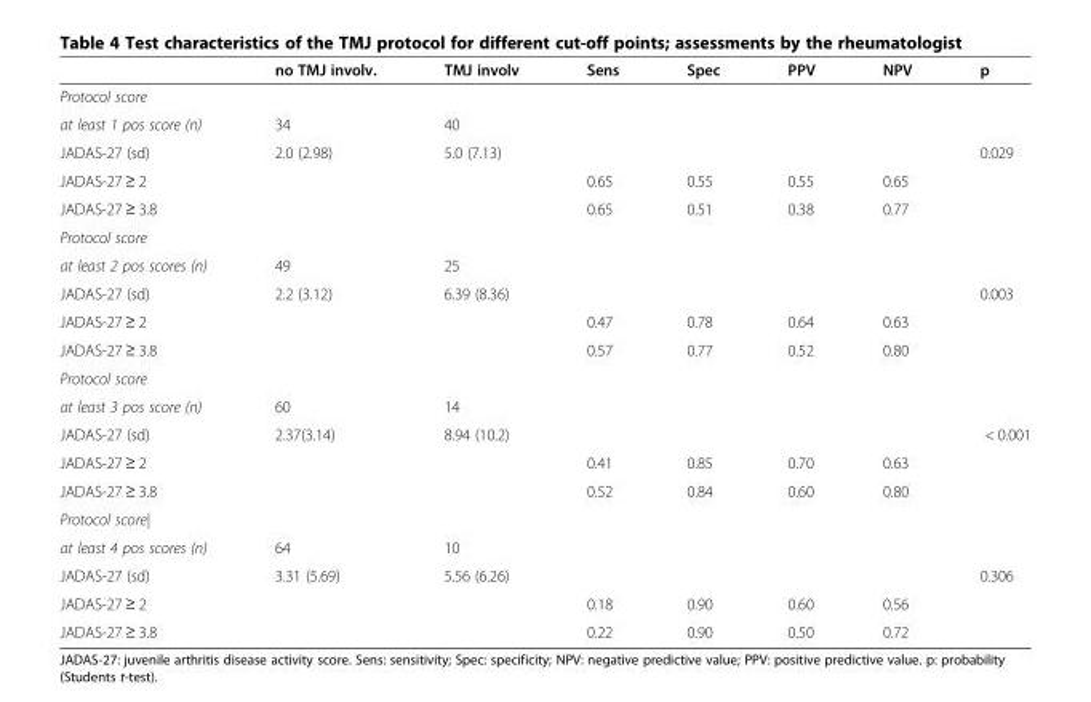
<table><thead><tr><td></td><td>no TMJ involv.</td><td>TMJ involv</td><td>Sens</td><td>Spec</td><td>PPV</td><td>NPV</td><td>p</td></tr></thead><tbody><tr><td colspan="8">Protocol score</td></tr><tr><td>at least 1 pos score (n)</td><td>34</td><td>40</td><td></td><td></td><td></td><td></td><td></td></tr><tr><td>JADAS-27 (sd)</td><td>2.0 (2.98)</td><td>5.0 (7.13)</td><td></td><td></td><td></td><td></td><td>0.029</td></tr><tr><td>JADAS-27 ≥ 2</td><td></td><td></td><td>0.65</td><td>0.55</td><td>0.55</td><td>0.65</td><td></td></tr><tr><td>JADAS-27 ≥ 3.8</td><td></td><td></td><td>0.65</td><td>0.51</td><td>0.38</td><td>0.77</td><td></td></tr><tr><td colspan="8">Protocol score</td></tr><tr><td>at least 2 pos scores (n)</td><td>49</td><td>25</td><td></td><td></td><td></td><td></td><td></td></tr><tr><td>JADAS-27 (sd)</td><td>2.2 (3.12)</td><td>6.39 (8.36)</td><td></td><td></td><td></td><td></td><td>0.003</td></tr><tr><td>JADAS-27 ≥ 2</td><td></td><td></td><td>0.47</td><td>0.78</td><td>0.64</td><td>0.63</td><td></td></tr><tr><td>JADAS-27 ≥ 3.8</td><td></td><td></td><td>0.57</td><td>0.77</td><td>0.52</td><td>0.80</td><td></td></tr><tr><td colspan="8">Protocol score</td></tr><tr><td>at least 3 pos score (n)</td><td>60</td><td>14</td><td></td><td></td><td></td><td></td><td></td></tr><tr><td>JADAS-27 (sd)</td><td>2.37(3.14)</td><td>8.94 (10.2)</td><td></td><td></td><td></td><td></td><td>&lt; 0.001</td></tr><tr><td>JADAS-27 ≥ 2</td><td></td><td></td><td>0.41</td><td>0.85</td><td>0.70</td><td>0.63</td><td></td></tr><tr><td>JADAS-27 ≥ 3.8</td><td></td><td></td><td>0.52</td><td>0.84</td><td>0.60</td><td>0.80</td><td></td></tr><tr><td colspan="8">Protocol score|</td></tr><tr><td>at least 4 pos scores (n)</td><td>64</td><td>10</td><td></td><td></td><td></td><td></td><td></td></tr><tr><td>JADAS-27 (sd)</td><td>3.31 (5.69)</td><td>5.56 (6.26)</td><td></td><td></td><td></td><td></td><td>0.306</td></tr><tr><td>JADAS-27 ≥ 2</td><td></td><td></td><td>0.18</td><td>0.90</td><td>0.60</td><td>0.56</td><td></td></tr><tr><td>JADAS-27 ≥ 3.8</td><td></td><td></td><td>0.22</td><td>0.90</td><td>0.50</td><td>0.72</td><td></td></tr></tbody></table>